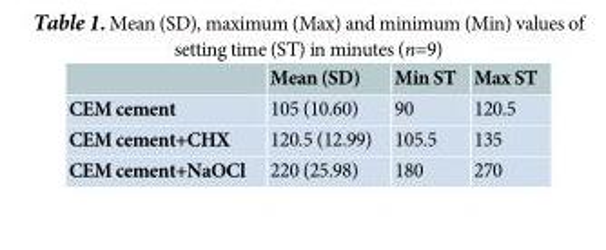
<table><thead><tr><td></td><td>Mean (SD)</td><td>Min ST</td><td>Max ST</td></tr></thead><tbody><tr><td>CEM cement</td><td>105 (10.60)</td><td>90</td><td>120.5</td></tr><tr><td>CEM cement+CHX</td><td>120.5 (12.99)</td><td>105.5</td><td>135</td></tr><tr><td>CEM cement+NaOCl</td><td>220 (25.98)</td><td>180</td><td>270</td></tr></tbody></table>